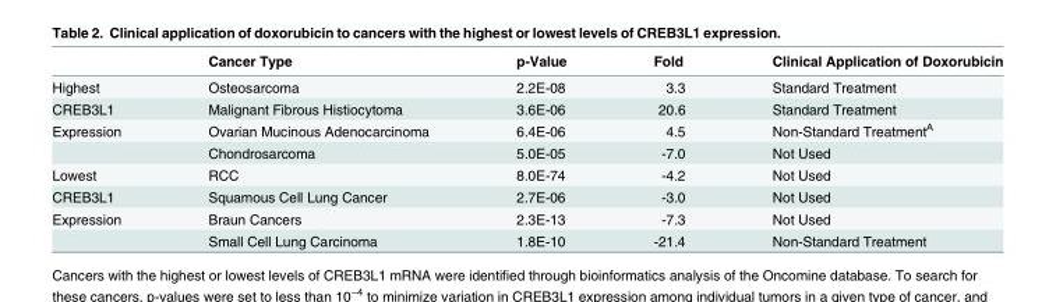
<table><thead><tr><td></td><td>Cancer Type</td><td>p-Value</td><td>Fold</td><td>Clinical Application of Doxorubicin</td></tr></thead><tbody><tr><td>Highest</td><td>Osteosarcoma</td><td>2.2E-08</td><td>3.3</td><td>Standard Treatment</td></tr><tr><td>CREB3L1</td><td>Malignant Fibrous Histiocytoma</td><td>3.6E-06</td><td>20.6</td><td>Standard Treatment</td></tr><tr><td rowspan="2">Expression</td><td>Ovarian Mucinous Adenocarcinoma</td><td>6.4E-06</td><td>4.5</td><td>Non-Standard Treatment<sup>A</sup></td></tr><tr><td>Chondrosarcoma</td><td>5.0E-05</td><td>-7.0</td><td>Not Used</td></tr><tr><td>Lowest</td><td>RCC</td><td>8.0E-74</td><td>-4.2</td><td>Not Used</td></tr><tr><td>CREB3L1</td><td>Squamous Cell Lung Cancer</td><td>2.7E-06</td><td>-3.0</td><td>Not Used</td></tr><tr><td rowspan="2">Expression</td><td>Braun Cancers</td><td>2.3E-13</td><td>-7.3</td><td>Not Used</td></tr><tr><td>Small Cell Lung Carcinoma</td><td>1.8E-10</td><td>-21.4</td><td>Non-Standard Treatment</td></tr></tbody></table>